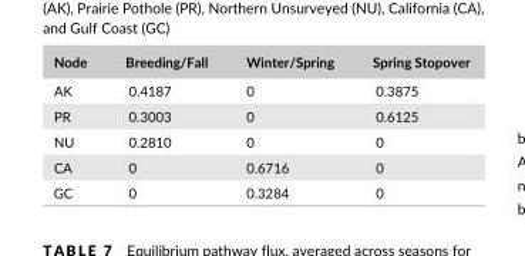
<table><thead><tr><td>Node</td><td>Breeding/Fall</td><td>Winter/Spring</td><td>Spring Stopover</td></tr></thead><tbody><tr><td>AK</td><td>0.4187</td><td>0</td><td>0.3875</td></tr><tr><td>PR</td><td>0.3003</td><td>0</td><td>0.6125</td></tr><tr><td>NU</td><td>0.2810</td><td>0</td><td>0</td></tr><tr><td>CA</td><td>0</td><td>0.6716</td><td>0</td></tr><tr><td>GC</td><td>0</td><td>0.3284</td><td>0</td></tr></tbody></table>